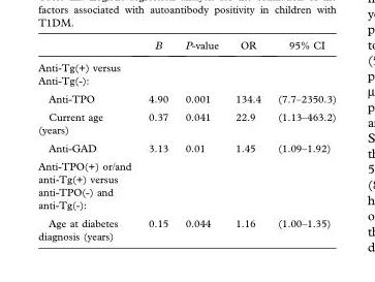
<table><thead><tr><td></td><td>B</td><td>P-value</td><td>OR</td><td>95% CI</td></tr></thead><tbody><tr><td colspan="5">Anti-Tg(+) versus Anti-Tg(-):</td></tr><tr><td>Anti-TPO</td><td>4.90</td><td>0.001</td><td>134.4</td><td>(7.7–2350.3)</td></tr><tr><td>Current age (years)</td><td>0.37</td><td>0.041</td><td>22.9</td><td>(1.13–463.2)</td></tr><tr><td>Anti-GAD</td><td>3.13</td><td>0.01</td><td>1.45</td><td>(1.09–1.92)</td></tr><tr><td colspan="5">Anti-TPO(+) or/and anti-Tg(+) versus anti-TPO(-) and anti-Tg(-):</td></tr><tr><td>Age at diabetes diagnosis (years)</td><td>0.15</td><td>0.044</td><td>1.16</td><td>(1.00–1.35)</td></tr></tbody></table>